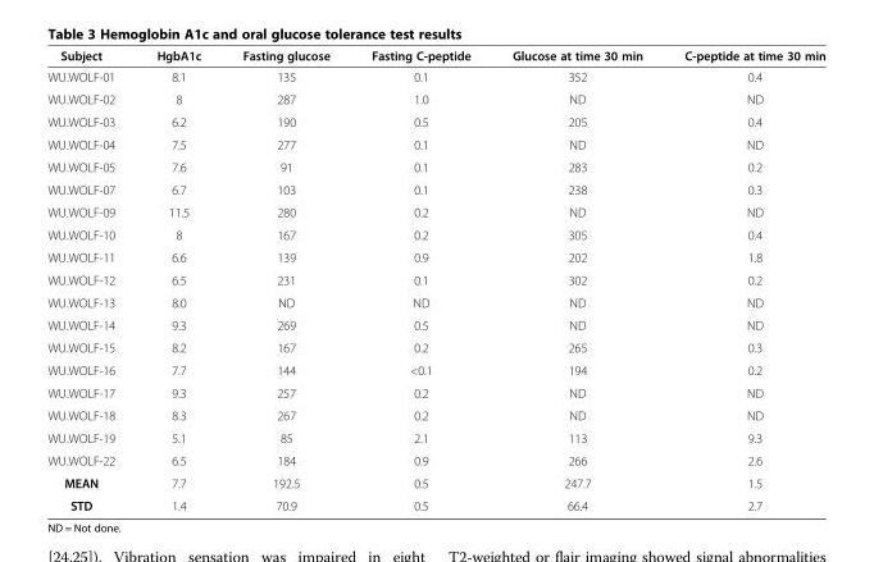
<table><thead><tr><td>Subject</td><td>HgbA1c</td><td>Fasting glucose</td><td>Fasting C-peptide</td><td>Glucose at time 30 min</td><td>C-peptide at time 30 min</td></tr></thead><tbody><tr><td>WU.WOLF-01</td><td>8.1</td><td>135</td><td>0.1</td><td>352</td><td>0.4</td></tr><tr><td>WU.WOLF-02</td><td>8</td><td>287</td><td>1.0</td><td>ND</td><td>ND</td></tr><tr><td>WU.WOLF-03</td><td>6.2</td><td>190</td><td>0.5</td><td>205</td><td>0.4</td></tr><tr><td>WU.WOLF-04</td><td>7.5</td><td>277</td><td>0.1</td><td>ND</td><td>ND</td></tr><tr><td>WU.WOLF-05</td><td>7.6</td><td>91</td><td>0.1</td><td>283</td><td>0.2</td></tr><tr><td>WU.WOLF-07</td><td>6.7</td><td>103</td><td>0.1</td><td>238</td><td>0.3</td></tr><tr><td>WU.WOLF-09</td><td>11.5</td><td>280</td><td>0.2</td><td>ND</td><td>ND</td></tr><tr><td>WU.WOLF-10</td><td>8</td><td>167</td><td>0.2</td><td>305</td><td>0.4</td></tr><tr><td>WU.WOLF-11</td><td>6.6</td><td>139</td><td>0.9</td><td>202</td><td>1.8</td></tr><tr><td>WU.WOLF-12</td><td>6.5</td><td>231</td><td>0.1</td><td>302</td><td>0.2</td></tr><tr><td>WU.WOLF-13</td><td>8.0</td><td>ND</td><td>ND</td><td>ND</td><td>ND</td></tr><tr><td>WU.WOLF-14</td><td>9.3</td><td>269</td><td>0.5</td><td>ND</td><td>ND</td></tr><tr><td>WU.WOLF-15</td><td>8.2</td><td>167</td><td>0.2</td><td>265</td><td>0.3</td></tr><tr><td>WU.WOLF-16</td><td>7.7</td><td>144</td><td>&lt;0.1</td><td>194</td><td>0.2</td></tr><tr><td>WU.WOLF-17</td><td>9.3</td><td>257</td><td>0.2</td><td>ND</td><td>ND</td></tr><tr><td>WU.WOLF-18</td><td>8.3</td><td>267</td><td>0.2</td><td>ND</td><td>ND</td></tr><tr><td>WU.WOLF-19</td><td>5.1</td><td>85</td><td>2.1</td><td>113</td><td>9.3</td></tr><tr><td>WU.WOLF-22</td><td>6.5</td><td>184</td><td>0.9</td><td>266</td><td>2.6</td></tr><tr><td>MEAN</td><td>7.7</td><td>192.5</td><td>0.5</td><td>247.7</td><td>1.5</td></tr><tr><td>STD</td><td>1.4</td><td>70.9</td><td>0.5</td><td>66.4</td><td>2.7</td></tr></tbody></table>